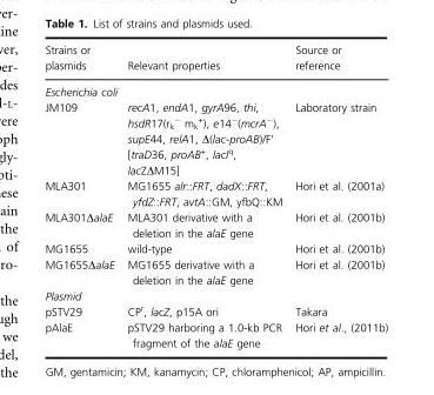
<table><thead><tr><td>Strains or plasmids</td><td>Relevant properties</td><td>Source or reference</td></tr></thead><tbody><tr><td colspan="3">Escherichia coli</td></tr><tr><td>JM109</td><td>recA1, endA1, gyrA96, thi, hsdR17(r<sub>k</sub> <sup>−</sup> m<sub>k</sub> <sup>+</sup>), e14<sup>−</sup>(mcrA<sup>−</sup>), supE44, relA1, Δ(lac-proAB)/F’ [traD36, proAB<sup>+</sup>, lacI<sup>q</sup>, lacZΔM15]</td><td>Laboratory strain</td></tr><tr><td>MLA301</td><td>MG1655 alr::FRT, dadX::FRT, yfdZ::FRT, avtA::GM, yfbQ::KM</td><td>Hori et al. (2001a)</td></tr><tr><td>MLA301ΔalaE</td><td>MLA301 derivative with a deletion in the alaE gene</td><td>Hori et al. (2001b)</td></tr><tr><td>MG1655</td><td>wild-type</td><td>Hori et al. (2001b)</td></tr><tr><td>MG1655ΔalaE</td><td>MG1655 derivative with a deletion in the alaE gene</td><td>Hori et al. (2001b)</td></tr><tr><td colspan="3">Plasmid</td></tr><tr><td>pSTV29</td><td>CP<sup>r</sup>, lacZ, p15A ori</td><td>Takara</td></tr><tr><td>pAlaE</td><td>pSTV29 harboring a 1.0-kb PCR fragment of the alaE gene</td><td>Hori et al., (2011b)</td></tr></tbody></table>